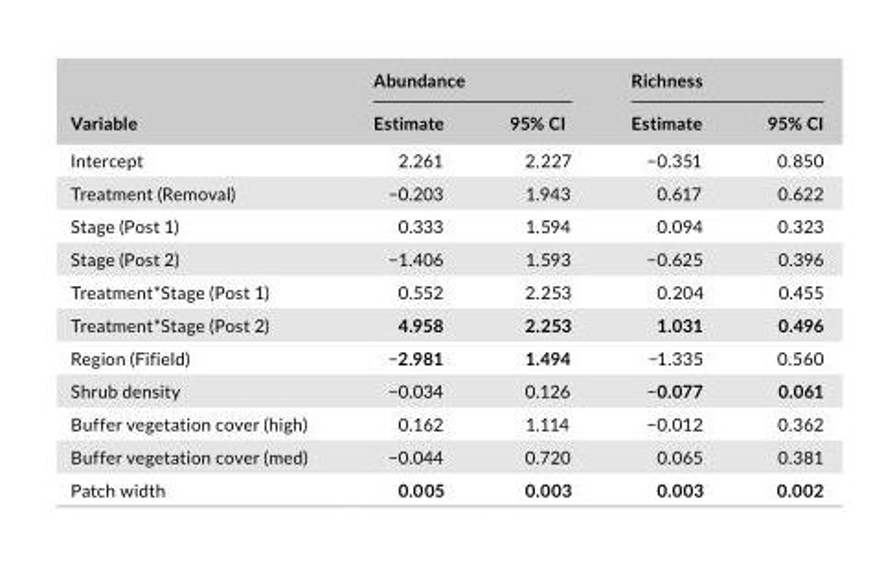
<table><thead><tr><td rowspan="2">Variable</td><td colspan="2">Abundance</td><td colspan="2">Richness</td></tr><tr><td>Estimate</td><td>95% CI</td><td>Estimate</td><td>95% CI</td></tr></thead><tbody><tr><td>Intercept</td><td>2.261</td><td>2.227</td><td>−0.351</td><td>0.850</td></tr><tr><td>Treatment (Removal)</td><td>−0.203</td><td>1.943</td><td>0.617</td><td>0.622</td></tr><tr><td>Stage (Post 1)</td><td>0.333</td><td>1.594</td><td>0.094</td><td>0.323</td></tr><tr><td>Stage (Post 2)</td><td>−1.406</td><td>1.593</td><td>−0.625</td><td>0.396</td></tr><tr><td>Treatment*Stage (Post 1)</td><td>0.552</td><td>2.253</td><td>0.204</td><td>0.455</td></tr><tr><td>Treatment*Stage (Post 2)</td><td>4.958</td><td>2.253</td><td>1.031</td><td>0.496</td></tr><tr><td>Region (Fifield)</td><td>−2.981</td><td>1.494</td><td>−1.335</td><td>0.560</td></tr><tr><td>Shrub density</td><td>−0.034</td><td>0.126</td><td>−0.077</td><td>0.061</td></tr><tr><td>Buffer vegetation cover (high)</td><td>0.162</td><td>1.114</td><td>−0.012</td><td>0.362</td></tr><tr><td>Buffer vegetation cover (med)</td><td>−0.044</td><td>0.720</td><td>0.065</td><td>0.381</td></tr><tr><td>Patch width</td><td>0.005</td><td>0.003</td><td>0.003</td><td>0.002</td></tr></tbody></table>